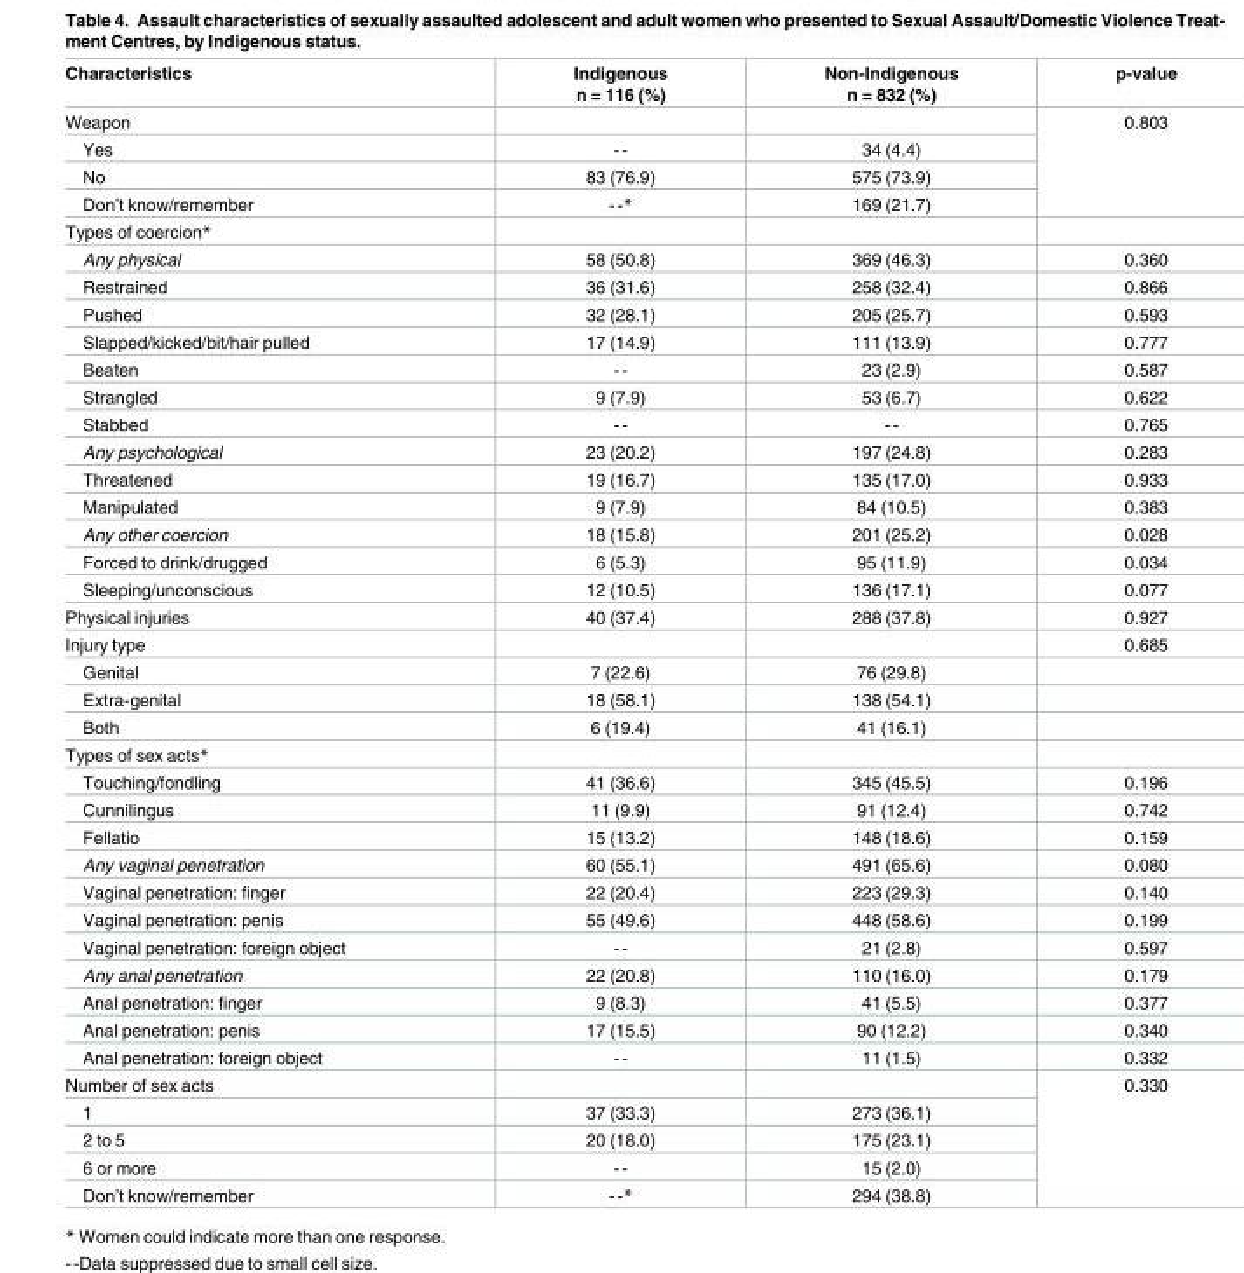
<table><thead><tr><td>Characteristics</td><td>Indigenous n = 116 (%)</td><td>Non-Indigenous n = 832 (%)</td><td>p-value</td></tr></thead><tbody><tr><td colspan="3">Weapon</td><td rowspan="4">0.803</td></tr><tr><td>Yes</td><td>--</td><td>34 (4.4)</td></tr><tr><td>No</td><td>83 (76.9)</td><td>575 (73.9)</td></tr><tr><td>Don’t know/remember</td><td>--*</td><td>169 (21.7)</td></tr><tr><td colspan="4">Types of coercion*</td></tr><tr><td>Any physical</td><td>58 (50.8)</td><td>369 (46.3)</td><td>0.360</td></tr><tr><td>Restrained</td><td>36 (31.6)</td><td>258 (32.4)</td><td>0.866</td></tr><tr><td>Pushed</td><td>32 (28.1)</td><td>205 (25.7)</td><td>0.593</td></tr><tr><td>Slapped/kicked/bit/hair pulled</td><td>17 (14.9)</td><td>111 (13.9)</td><td>0.777</td></tr><tr><td>Beaten</td><td>--</td><td>23 (2.9)</td><td>0.587</td></tr><tr><td>Strangled</td><td>9 (7.9)</td><td>53 (6.7)</td><td>0.622</td></tr><tr><td>Stabbed</td><td>--</td><td>--</td><td>0.765</td></tr><tr><td>Any psychological</td><td>23 (20.2)</td><td>197 (24.8)</td><td>0.283</td></tr><tr><td>Threatened</td><td>19 (16.7)</td><td>135 (17.0)</td><td>0.933</td></tr><tr><td>Manipulated</td><td>9 (7.9)</td><td>84 (10.5)</td><td>0.383</td></tr><tr><td>Any other coercion</td><td>18 (15.8)</td><td>201 (25.2)</td><td>0.028</td></tr><tr><td>Forced to drink/drugged</td><td>6 (5.3)</td><td>95 (11.9)</td><td>0.034</td></tr><tr><td>Sleeping/unconscious</td><td>12 (10.5)</td><td>136 (17.1)</td><td>0.077</td></tr><tr><td>Physical injuries</td><td>40 (37.4)</td><td>288 (37.8)</td><td>0.927</td></tr><tr><td>Injury type</td><td></td><td></td><td>0.685</td></tr><tr><td>Genital</td><td>7 (22.6)</td><td>76 (29.8)</td><td></td></tr><tr><td>Extra-genital</td><td>18 (58.1)</td><td>138 (54.1)</td><td></td></tr><tr><td>Both</td><td>6 (19.4)</td><td>41 (16.1)</td><td></td></tr><tr><td colspan="4">Types of sex acts*</td></tr><tr><td>Touching/fondling</td><td>41 (36.6)</td><td>345 (45.5)</td><td>0.196</td></tr><tr><td>Cunnilingus</td><td>11 (9.9)</td><td>91 (12.4)</td><td>0.742</td></tr><tr><td>Fellatio</td><td>15 (13.2)</td><td>148 (18.6)</td><td>0.159</td></tr><tr><td>Any vaginal penetration</td><td>60 (55.1)</td><td>491 (65.6)</td><td>0.080</td></tr><tr><td>Vaginal penetration: finger</td><td>22 (20.4)</td><td>223 (29.3)</td><td>0.140</td></tr><tr><td>Vaginal penetration: penis</td><td>55 (49.6)</td><td>448 (58.6)</td><td>0.199</td></tr><tr><td>Vaginal penetration: foreign object</td><td>--</td><td>21 (2.8)</td><td>0.597</td></tr><tr><td>Any anal penetration</td><td>22 (20.8)</td><td>110 (16.0)</td><td>0.179</td></tr><tr><td>Anal penetration: finger</td><td>9 (8.3)</td><td>41 (5.5)</td><td>0.377</td></tr><tr><td>Anal penetration: penis</td><td>17 (15.5)</td><td>90 (12.2)</td><td>0.340</td></tr><tr><td>Anal penetration: foreign object</td><td>--</td><td>11 (1.5)</td><td>0.332</td></tr><tr><td colspan="3">Number of sex acts</td><td rowspan="5">0.330</td></tr><tr><td>1</td><td>37 (33.3)</td><td>273 (36.1)</td></tr><tr><td>2 to 5</td><td>20 (18.0)</td><td>175 (23.1)</td></tr><tr><td>6 or more</td><td>--</td><td>15 (2.0)</td></tr><tr><td>Don’t know/remember</td><td>--*</td><td>294 (38.8)</td></tr></tbody></table>